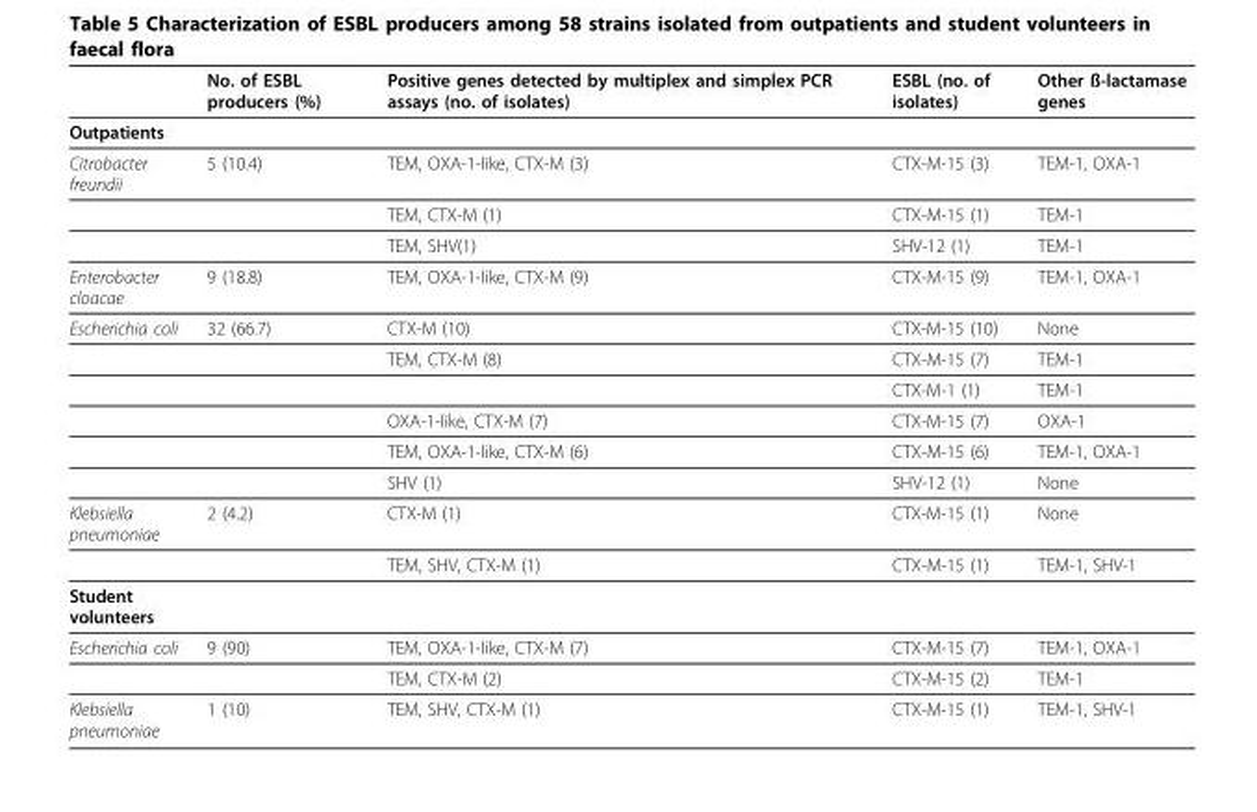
<table><thead><tr><td></td><td>No. of ESBL producers (%)</td><td>Positive genes detected by multiplex and simplex PCR assays (no. of isolates)</td><td>ESBL (no. of isolates)</td><td>Other ß-lactamase genes</td></tr></thead><tbody><tr><td colspan="5">Outpatients</td></tr><tr><td rowspan="3">Citrobacter freundii</td><td>5 (10.4)</td><td>TEM, OXA-1-like, CTX-M (3)</td><td>CTX-M-15 (3)</td><td>TEM-1, OXA-1</td></tr><tr><td></td><td>TEM, CTX-M (1)</td><td>CTX-M-15 (1)</td><td>TEM-1</td></tr><tr><td></td><td>TEM, SHV(1)</td><td>SHV-12 (1)</td><td>TEM-1</td></tr><tr><td>Enterobacter cloacae</td><td>9 (18.8)</td><td>TEM, OXA-1-like, CTX-M (9)</td><td>CTX-M-15 (9)</td><td>TEM-1, OXA-1</td></tr><tr><td rowspan="6">Escherichia coli</td><td>32 (66.7)</td><td>CTX-M (10)</td><td>CTX-M-15 (10)</td><td>None</td></tr><tr><td></td><td>TEM, CTX-M (8)</td><td>CTX-M-15 (7)</td><td>TEM-1</td></tr><tr><td></td><td></td><td>CTX-M-1 (1)</td><td>TEM-1</td></tr><tr><td></td><td>OXA-1-like, CTX-M (7)</td><td>CTX-M-15 (7)</td><td>OXA-1</td></tr><tr><td></td><td>TEM, OXA-1-like, CTX-M (6)</td><td>CTX-M-15 (6)</td><td>TEM-1, OXA-1</td></tr><tr><td></td><td>SHV (1)</td><td>SHV-12 (1)</td><td>None</td></tr><tr><td rowspan="2">Klebsiella pneumoniae</td><td>2 (4.2)</td><td>CTX-M (1)</td><td>CTX-M-15 (1)</td><td>None</td></tr><tr><td></td><td>TEM, SHV, CTX-M (1)</td><td>CTX-M-15 (1)</td><td>TEM-1, SHV-1</td></tr><tr><td colspan="5">Student volunteers</td></tr><tr><td rowspan="2">Escherichia coli</td><td>9 (90)</td><td>TEM, OXA-1-like, CTX-M (7)</td><td>CTX-M-15 (7)</td><td>TEM-1, OXA-1</td></tr><tr><td></td><td>TEM, CTX-M (2)</td><td>CTX-M-15 (2)</td><td>TEM-1</td></tr><tr><td>Klebsiella pneumoniae</td><td>1 (10)</td><td>TEM, SHV, CTX-M (1)</td><td>CTX-M-15 (1)</td><td>TEM-1, SHV-1</td></tr></tbody></table>